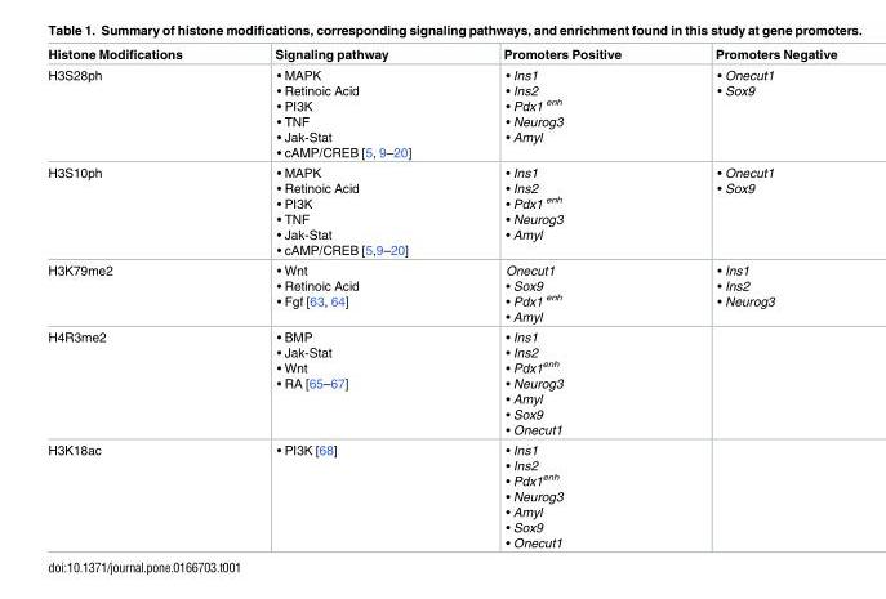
<table><thead><tr><td>Histone Modifications</td><td>Signaling pathway</td><td>Promoters Positive</td><td>Promoters Negative</td></tr></thead><tbody><tr><td>H3S28ph</td><td>• MAPK • Retinoic Acid • PI3K • TNF • Jak-Stat • cAMP/CREB [5, 9–20]</td><td>• Ins1 • Ins2 • Pdx1 <sup>enh</sup> • Neurog3 • Amyl</td><td>• Onecut1 • Sox9</td></tr><tr><td>H3S10ph</td><td>• MAPK • Retinoic Acid • PI3K • TNF • Jak-Stat • cAMP/CREB [5,9–20]</td><td>• Ins1 • Ins2 • Pdx1 <sup>enh</sup> • Neurog3 • Amyl</td><td>• Onecut1 • Sox9</td></tr><tr><td>H3K79me2</td><td>• Wnt • Retinoic Acid • Fgf [63, 64]</td><td>Onecut1 • Sox9 • Pdx1 <sup>enh</sup> • Amyl</td><td>• Ins1 • Ins2 • Neurog3</td></tr><tr><td>H4R3me2</td><td>• BMP • Jak-Stat • Wnt • RA [65–67]</td><td>• Ins1 • Ins2 • Pdx1<sup>enh</sup> • Neurog3 • Amyl • Sox9 • Onecut1</td><td></td></tr><tr><td>H3K18ac</td><td>• PI3K [68]</td><td>• Ins1 • Ins2 • Pdx1<sup>enh</sup> • Neurog3 • Amyl • Sox9 • Onecut1</td><td></td></tr></tbody></table>